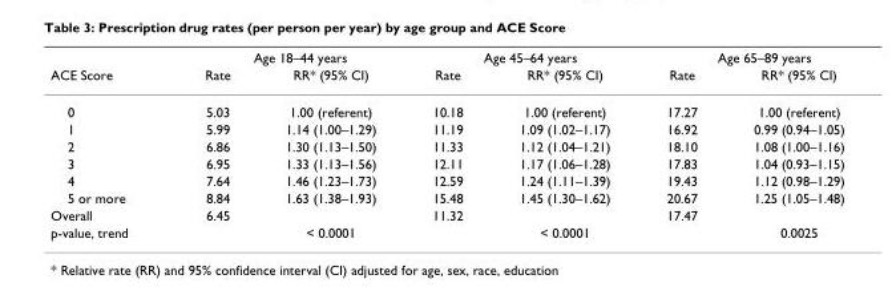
<table><thead><tr><td rowspan="2">ACE Score</td><td colspan="2">Age 18–44 years</td><td colspan="2">Age 45–64 years</td><td colspan="2">Age 65–89 years</td></tr><tr><td>Rate</td><td>RR* (95% CI)</td><td>Rate</td><td>RR* (95% CI)</td><td>Rate</td><td>RR* (95% CI)</td></tr></thead><tbody><tr><td>0</td><td>5.03</td><td>1.00 (referent)</td><td>10.18</td><td>1.00 (referent)</td><td>17.27</td><td>1.00 (referent)</td></tr><tr><td>1</td><td>5.99</td><td>1.14 (1.00–1.29)</td><td>11.19</td><td>1.09 (1.02–1.17)</td><td>16.92</td><td>0.99 (0.94–1.05)</td></tr><tr><td>2</td><td>6.86</td><td>1.30 (1.13–1.50)</td><td>11.33</td><td>1.12 (1.04–1.21)</td><td>18.10</td><td>1.08 (1.00–1.16)</td></tr><tr><td>3</td><td>6.95</td><td>1.33 (1.13–1.56)</td><td>12.11</td><td>1.17 (1.06–1.28)</td><td>17.83</td><td>1.04 (0.93–1.15)</td></tr><tr><td>4</td><td>7.64</td><td>1.46 (1.23–1.73)</td><td>12.59</td><td>1.24 (1.11–1.39)</td><td>19.43</td><td>1.12 (0.98–1.29)</td></tr><tr><td>5 or more</td><td>8.84</td><td>1.63 (1.38–1.93)</td><td>15.48</td><td>1.45 (1.30–1.62)</td><td>20.67</td><td>1.25 (1.05–1.48)</td></tr><tr><td>Overall</td><td>6.45</td><td></td><td>11.32</td><td></td><td>17.47</td><td></td></tr><tr><td>p-value, trend</td><td></td><td>&lt; 0.0001</td><td></td><td>&lt; 0.0001</td><td></td><td>0.0025</td></tr></tbody></table>